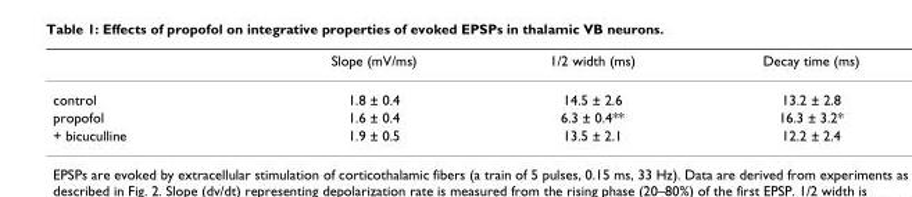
<table><thead><tr><td></td><td>Slope (mV/ms)</td><td>1/2 width (ms)</td><td>Decay time (ms)</td></tr></thead><tbody><tr><td>control</td><td>1.8 ± 0.4</td><td>14.5 ± 2.6</td><td>13.2 ± 2.8</td></tr><tr><td>propofol</td><td>1.6 ± 0.4</td><td>6.3 ± 0.4**</td><td>16.3 ± 3.2*</td></tr><tr><td>+ bicuculline</td><td>1.9 ± 0.5</td><td>13.5 ± 2.1</td><td>12.2 ± 2.4</td></tr></tbody></table>